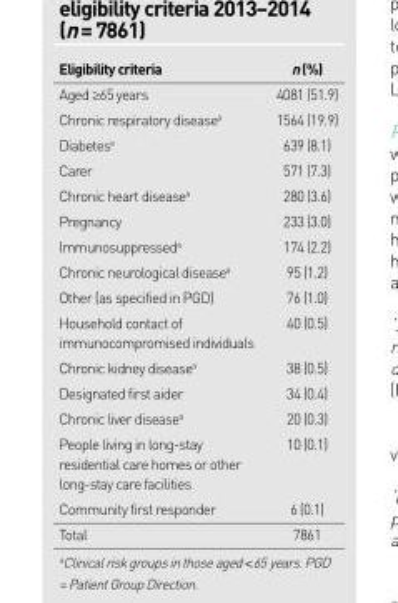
<table><thead><tr><td>Eligibility criteria</td><td>n (%)</td></tr></thead><tbody><tr><td>Aged ≥65 years</td><td>4081 (51.9)</td></tr><tr><td>Chronic respiratory disease<sup>a</sup></td><td>1564 (19.9)</td></tr><tr><td>Diabetes<sup>a</sup></td><td>639 (8.1)</td></tr><tr><td>Carer</td><td>571 (7.3)</td></tr><tr><td>Chronic heart disease<sup>a</sup></td><td>280 (3.6)</td></tr><tr><td>Pregnancy</td><td>233 (3.0)</td></tr><tr><td>Immunosuppressed<sup>a</sup></td><td>174 (2.2)</td></tr><tr><td>Chronic neurological disease<sup>a</sup></td><td>95 (1.2)</td></tr><tr><td>Other (as specified in PGD)</td><td>76 (1.0)</td></tr><tr><td>Household contact of immunocompromised individuals</td><td>40 (0.5)</td></tr><tr><td>Chronic kidney disease<sup>a</sup></td><td>38 (0.5)</td></tr><tr><td>Designated first aider</td><td>34 (0.4)</td></tr><tr><td>Chronic liver disease<sup>a</sup></td><td>20 (0.3)</td></tr><tr><td>People living in long-stay residential care homes or other long-stay care facilities</td><td>10 (0.1)</td></tr><tr><td>Community first responder</td><td>6 (0.1)</td></tr><tr><td>Total</td><td>7861</td></tr></tbody></table>